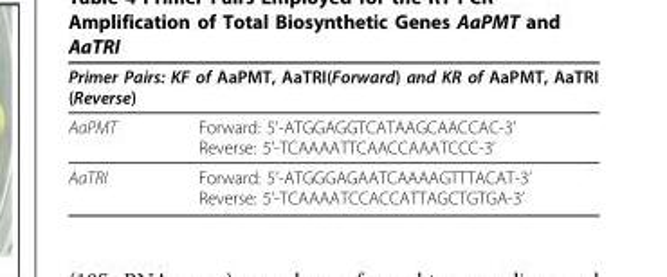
<table><thead><tr><td colspan="2">Primer Pairs: KF of AaPMT, AaTRI(Forward) and KR of AaPMT, AaTRI (Reverse)</td></tr><tr><td>AaPMT</td><td>Forward: 5’-ATGGAGGTCATAAGCAACCAC-3’ Reverse: 5’-TCAAAATTCAACCAAATCCC-3’</td></tr></thead><tbody><tr><td>AaTRI</td><td>Forward: 5’-ATGGGAGAATCAAAAGTTTACAT-3’ Reverse: 5’-TCAAAATCCACCATTAGCTGTGA-3’</td></tr></tbody></table>